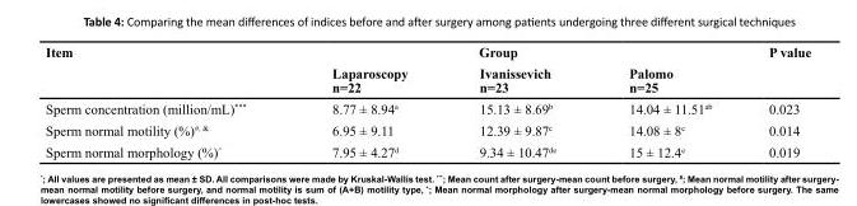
<table><thead><tr><td rowspan="2">Item</td><td colspan="3">Group</td><td rowspan="2">P value</td></tr><tr><td>Laparoscopy n=22</td><td>Ivanissevich n=23</td><td>Palomo n=25</td></tr></thead><tbody><tr><td>Sperm concentration (million/mL)***</td><td>8.77 ± 8.94<sup>a</sup></td><td>15.13 ± 8.69<sup>b</sup></td><td>14.04 ± 11.51<sup>ab</sup></td><td>0.023</td></tr><tr><td>Sperm normal motility (%)<sup>#, &amp;</sup></td><td>6.95 ± 9.11</td><td>12.39 ± 9.87<sup>c</sup></td><td>14.08 ± 8<sup>c</sup></td><td>0.014</td></tr><tr><td>Sperm normal morphology (%)<sup>^</sup></td><td>7.95 ± 4.27<sup>d</sup></td><td>9.34 ± 10.47<sup>de</sup></td><td>15 ± 12.4<sup>e</sup></td><td>0.019</td></tr></tbody></table>